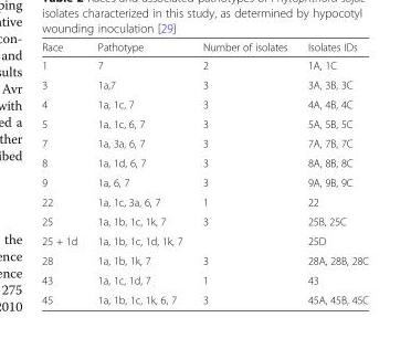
<table><thead><tr><td>Race</td><td>Pathotype</td><td>Number of isolates</td><td>Isolates IDs</td></tr></thead><tbody><tr><td>1</td><td>7</td><td>2</td><td>1A, 1C</td></tr><tr><td>3</td><td>1a,7</td><td>3</td><td>3A, 3B, 3C</td></tr><tr><td>4</td><td>1a, 1c, 7</td><td>3</td><td>4A, 4B, 4C</td></tr><tr><td>5</td><td>1a, 1c, 6, 7</td><td>3</td><td>5A, 5B, 5C</td></tr><tr><td>7</td><td>1a, 3a, 6, 7</td><td>3</td><td>7A, 7B, 7C</td></tr><tr><td>8</td><td>1a, 1d, 6, 7</td><td>3</td><td>8A, 8B, 8C</td></tr><tr><td>9</td><td>1a, 6, 7</td><td>3</td><td>9A, 9B, 9C</td></tr><tr><td>22</td><td>1a, 1c, 3a, 6, 7</td><td>1</td><td>22</td></tr><tr><td>25</td><td>1a, 1b, 1c, 1k, 7</td><td>3</td><td>25B, 25C</td></tr><tr><td>25 + 1d</td><td>1a, 1b, 1c, 1d, 1k, 7</td><td></td><td>25D</td></tr><tr><td>28</td><td>1a, 1b, 1k, 7</td><td>3</td><td>28A, 28B, 28C</td></tr><tr><td>43</td><td>1a, 1c, 1d, 7</td><td>1</td><td>43</td></tr><tr><td>45</td><td>1a, 1b, 1c, 1k, 6, 7</td><td>3</td><td>45A, 45B, 45C</td></tr></tbody></table>